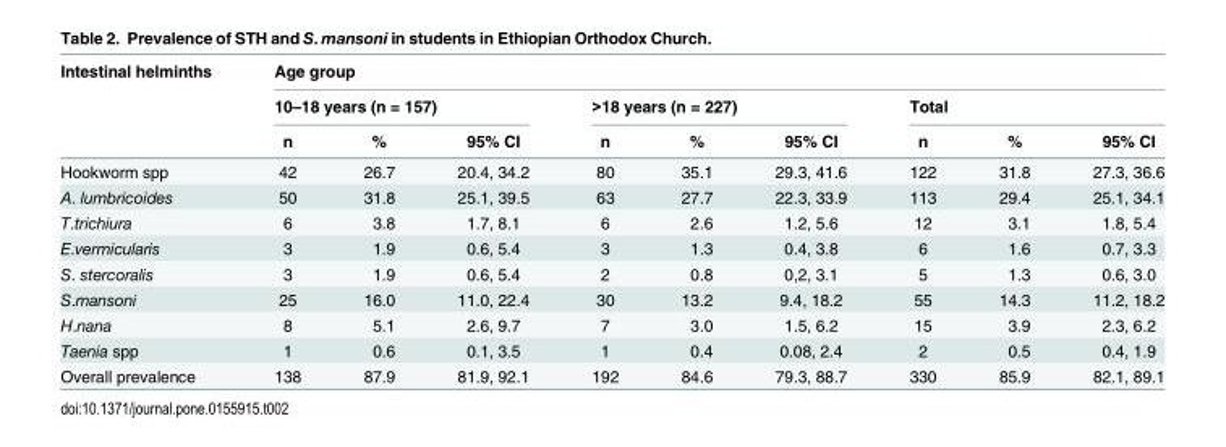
<table><thead><tr><td rowspan="3">Intestinal helminths</td><td colspan="9">Age group</td></tr><tr><td colspan="3">10–18 years (n = 157)</td><td colspan="3">&gt;18 years (n = 227)</td><td colspan="3">Total</td></tr><tr><td>n</td><td>%</td><td>95% CI</td><td>n</td><td>%</td><td>95% CI</td><td>n</td><td>%</td><td>95% CI</td></tr></thead><tbody><tr><td>Hookworm spp</td><td>42</td><td>26.7</td><td>20.4, 34.2</td><td>80</td><td>35.1</td><td>29.3, 41.6</td><td>122</td><td>31.8</td><td>27.3, 36.6</td></tr><tr><td>A. lumbricoides</td><td>50</td><td>31.8</td><td>25.1, 39.5</td><td>63</td><td>27.7</td><td>22.3, 33.9</td><td>113</td><td>29.4</td><td>25.1, 34.1</td></tr><tr><td>T.trichiura</td><td>6</td><td>3.8</td><td>1.7, 8.1</td><td>6</td><td>2.6</td><td>1.2, 5.6</td><td>12</td><td>3.1</td><td>1.8, 5.4</td></tr><tr><td>E.vermicularis</td><td>3</td><td>1.9</td><td>0.6, 5.4</td><td>3</td><td>1.3</td><td>0.4, 3.8</td><td>6</td><td>1.6</td><td>0.7, 3.3</td></tr><tr><td>S. stercoralis</td><td>3</td><td>1.9</td><td>0.6, 5.4</td><td>2</td><td>0.8</td><td>0,2, 3.1</td><td>5</td><td>1.3</td><td>0.6, 3.0</td></tr><tr><td>S.mansoni</td><td>25</td><td>16.0</td><td>11.0, 22.4</td><td>30</td><td>13.2</td><td>9.4, 18.2</td><td>55</td><td>14.3</td><td>11.2, 18.2</td></tr><tr><td>H.nana</td><td>8</td><td>5.1</td><td>2.6, 9.7</td><td>7</td><td>3.0</td><td>1.5, 6.2</td><td>15</td><td>3.9</td><td>2.3, 6.2</td></tr><tr><td>Taenia spp</td><td>1</td><td>0.6</td><td>0.1, 3.5</td><td>1</td><td>0.4</td><td>0.08, 2.4</td><td>2</td><td>0.5</td><td>0.4, 1.9</td></tr><tr><td>Overall prevalence</td><td>138</td><td>87.9</td><td>81.9, 92.1</td><td>192</td><td>84.6</td><td>79.3, 88.7</td><td>330</td><td>85.9</td><td>82.1, 89.1</td></tr></tbody></table>